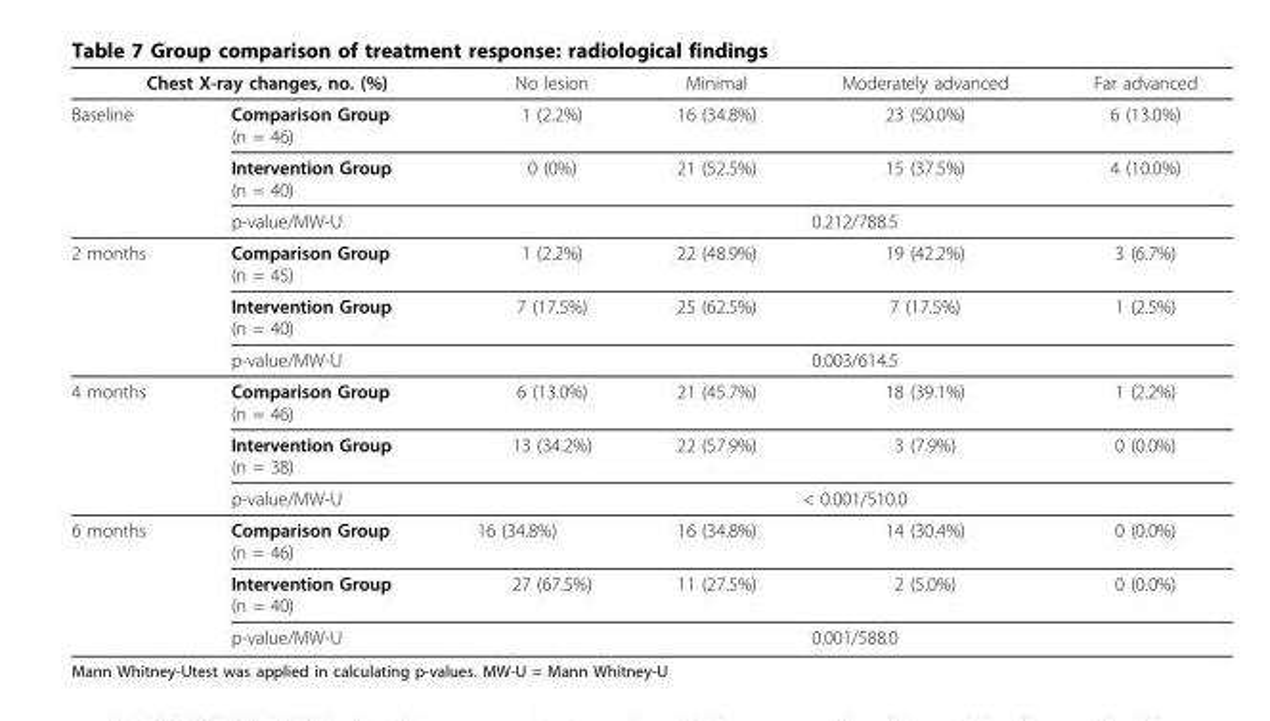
<table><thead><tr><td colspan="2">Chest X-ray changes, no. (%)</td><td rowspan="2">No lesion 1 (2.2%)</td><td rowspan="2">Minimal 16 (34.8%)</td><td rowspan="2">Moderately advanced 23 (50.0%)</td><td rowspan="2">Far advanced 6 (13.0%)</td></tr><tr><td>Baseline</td><td>Comparison Group (n = 46)</td></tr></thead><tbody><tr><td></td><td>Intervention Group (n = 40)</td><td>0 (0%)</td><td>21 (52.5%)</td><td>15 (37.5%)</td><td>4 (10.0%)</td></tr><tr><td></td><td>p-value/MW-U</td><td colspan="4">0.212/788.5</td></tr><tr><td rowspan="3">2 months</td><td>Comparison Group (n = 45)</td><td>1 (2.2%)</td><td>22 (48.9%)</td><td>19 (42.2%)</td><td>3 (6.7%)</td></tr><tr><td>Intervention Group (n = 40)</td><td>7 (17.5%)</td><td>25 (62.5%)</td><td>7 (17.5%)</td><td>1 (2.5%)</td></tr><tr><td>p-value/MW-U</td><td colspan="4">0.003/614.5</td></tr><tr><td rowspan="3">4 months</td><td>Comparison Group (n = 46)</td><td>6 (13.0%)</td><td>21 (45.7%)</td><td>18 (39.1%)</td><td>1 (2.2%)</td></tr><tr><td>Intervention Group (n = 38)</td><td>13 (34.2%)</td><td>22 (57.9%)</td><td>3 (7.9%)</td><td>0 (0.0%)</td></tr><tr><td>p-value/MW-U</td><td colspan="4">&lt; 0.001/510.0</td></tr><tr><td rowspan="3">6 months</td><td>Comparison Group (n = 46)</td><td>16 (34.8%)</td><td>16 (34.8%)</td><td>14 (30.4%)</td><td>0 (0.0%)</td></tr><tr><td>Intervention Group (n = 40)</td><td>27 (67.5%)</td><td>11 (27.5%)</td><td>2 (5.0%)</td><td>0 (0.0%)</td></tr><tr><td>p-value/MW-U</td><td colspan="4">0.001/588.0</td></tr></tbody></table>